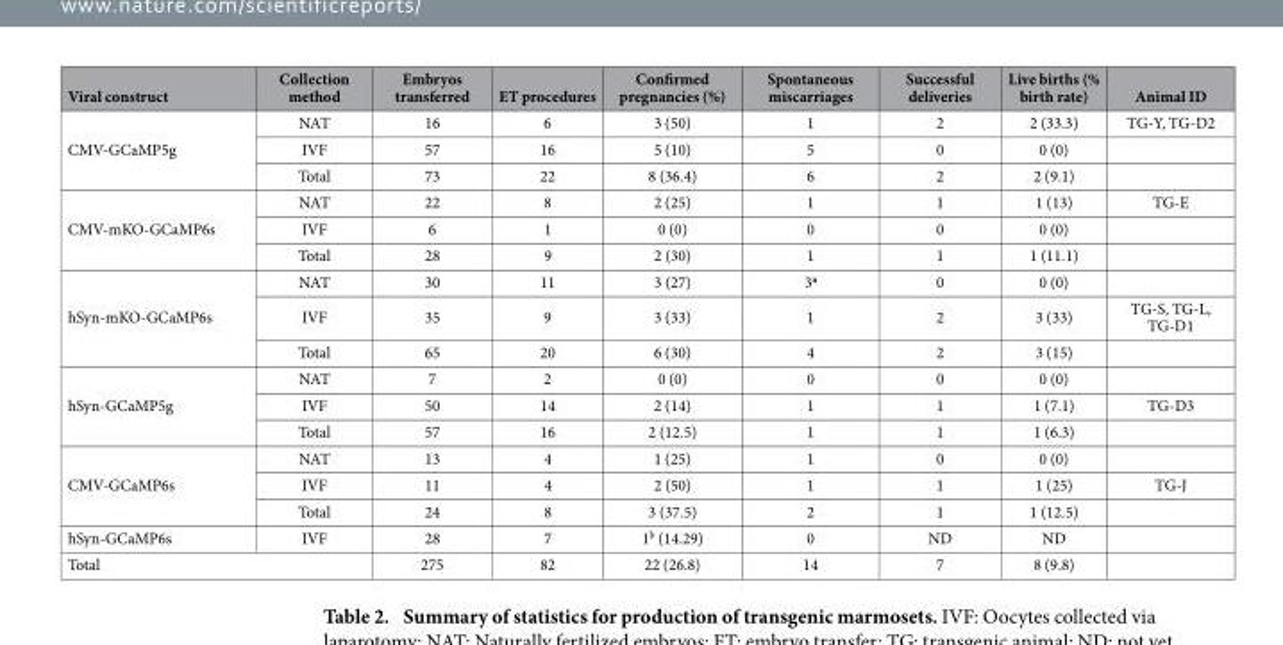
<table><thead><tr><td>Viral construct</td><td>Collection method</td><td>Embryos transferred</td><td>ET procedures</td><td>Confirmed pregnancies (%)</td><td>Spontaneous miscarriages</td><td>Successful deliveries</td><td>Live births (% birth rate)</td><td>Animal ID</td></tr></thead><tbody><tr><td rowspan="3">CMV-GCaMP5g</td><td>NAT</td><td>16</td><td>6</td><td>3 (50)</td><td>1</td><td>2</td><td>2 (33.3)</td><td>TG-Y, TG-D2</td></tr><tr><td>IVF</td><td>57</td><td>16</td><td>5 (10)</td><td>5</td><td>0</td><td>0 (0)</td><td></td></tr><tr><td>Total</td><td>73</td><td>22</td><td>8 (36.4)</td><td>6</td><td>2</td><td>2 (9.1)</td><td></td></tr><tr><td rowspan="3">CMV-mKO-GCaMP6s</td><td>NAT</td><td>22</td><td>8</td><td>2 (25)</td><td>1</td><td>1</td><td>1 (13)</td><td>TG-E</td></tr><tr><td>IVF</td><td>6</td><td>1</td><td>0 (0)</td><td>0</td><td>0</td><td>0 (0)</td><td></td></tr><tr><td>Total</td><td>28</td><td>9</td><td>2 (30)</td><td>1</td><td>1</td><td>1 (11.1)</td><td></td></tr><tr><td rowspan="3">hSyn-mKO-GCaMP6s</td><td>NAT</td><td>30</td><td>11</td><td>3 (27)</td><td>3<sup>a</sup></td><td>0</td><td>0 (0)</td><td></td></tr><tr><td>IVF</td><td>35</td><td>9</td><td>3 (33)</td><td>1</td><td>2</td><td>3 (33)</td><td>TG-S, TG-L, TG-D1</td></tr><tr><td>Total</td><td>65</td><td>20</td><td>6 (30)</td><td>4</td><td>2</td><td>3 (15)</td><td></td></tr><tr><td rowspan="3">hSyn-GCaMP5g</td><td>NAT</td><td>7</td><td>2</td><td>0 (0)</td><td>0</td><td>0</td><td>0 (0)</td><td></td></tr><tr><td>IVF</td><td>50</td><td>14</td><td>2 (14)</td><td>1</td><td>1</td><td>1 (7.1)</td><td>TG-D3</td></tr><tr><td>Total</td><td>57</td><td>16</td><td>2 (12.5)</td><td>1</td><td>1</td><td>1 (6.3)</td><td></td></tr><tr><td rowspan="3">CMV-GCaMP6s</td><td>NAT</td><td>13</td><td>4</td><td>1 (25)</td><td>1</td><td>0</td><td>0 (0)</td><td></td></tr><tr><td>IVF</td><td>11</td><td>4</td><td>2 (50)</td><td>1</td><td>1</td><td>1 (25)</td><td>TG-J</td></tr><tr><td>Total</td><td>24</td><td>8</td><td>3 (37.5)</td><td>2</td><td>1</td><td>1 (12.5)</td><td></td></tr><tr><td>hSyn-GCaMP6s</td><td>IVF</td><td>28</td><td>7</td><td>1<sup>b</sup> (14.29)</td><td>0</td><td>ND</td><td>ND</td><td></td></tr><tr><td colspan="2">Total</td><td>275</td><td>82</td><td>22 (26.8)</td><td>14</td><td>7</td><td>8 (9.8)</td><td></td></tr></tbody></table>